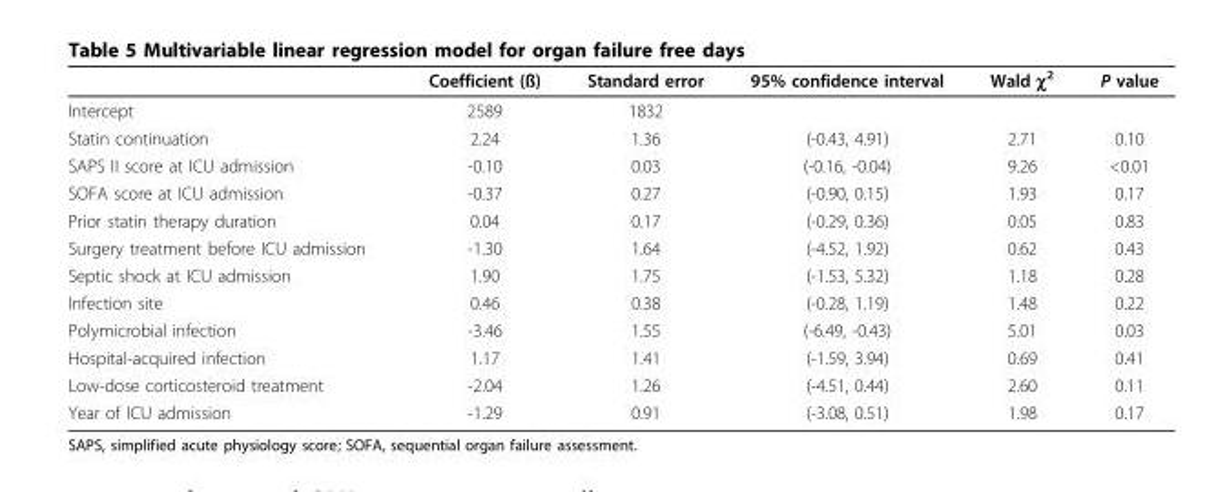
<table><thead><tr><td></td><td>Coefficient (ß)</td><td>Standard error</td><td>95% confidence interval</td><td>Wald χ<sup>2</sup></td><td>P value</td></tr></thead><tbody><tr><td>Intercept</td><td>2589</td><td>1832</td><td></td><td></td><td></td></tr><tr><td>Statin continuation</td><td>2.24</td><td>1.36</td><td>(-0.43, 4.91)</td><td>2.71</td><td>0.10</td></tr><tr><td>SAPS II score at ICU admission</td><td>-0.10</td><td>0.03</td><td>(-0.16, -0.04)</td><td>9.26</td><td>&lt;0.01</td></tr><tr><td>SOFA score at ICU admission</td><td>-0.37</td><td>0.27</td><td>(-0.90, 0.15)</td><td>1.93</td><td>0.17</td></tr><tr><td>Prior statin therapy duration</td><td>0.04</td><td>0.17</td><td>(-0.29, 0.36)</td><td>0.05</td><td>0.83</td></tr><tr><td>Surgery treatment before ICU admission</td><td>-1.30</td><td>1.64</td><td>(-4.52, 1.92)</td><td>0.62</td><td>0.43</td></tr><tr><td>Septic shock at ICU admission</td><td>1.90</td><td>1.75</td><td>(-1.53, 5.32)</td><td>1.18</td><td>0.28</td></tr><tr><td>Infection site</td><td>0.46</td><td>0.38</td><td>(-0.28, 1.19)</td><td>1.48</td><td>0.22</td></tr><tr><td>Polymicrobial infection</td><td>-3.46</td><td>1.55</td><td>(-6.49, -0.43)</td><td>5.01</td><td>0.03</td></tr><tr><td>Hospital-acquired infection</td><td>1.17</td><td>1.41</td><td>(-1.59, 3.94)</td><td>0.69</td><td>0.41</td></tr><tr><td>Low-dose corticosteroid treatment</td><td>-2.04</td><td>1.26</td><td>(-4.51, 0.44)</td><td>2.60</td><td>0.11</td></tr><tr><td>Year of ICU admission</td><td>-1.29</td><td>0.91</td><td>(-3.08, 0.51)</td><td>1.98</td><td>0.17</td></tr></tbody></table>